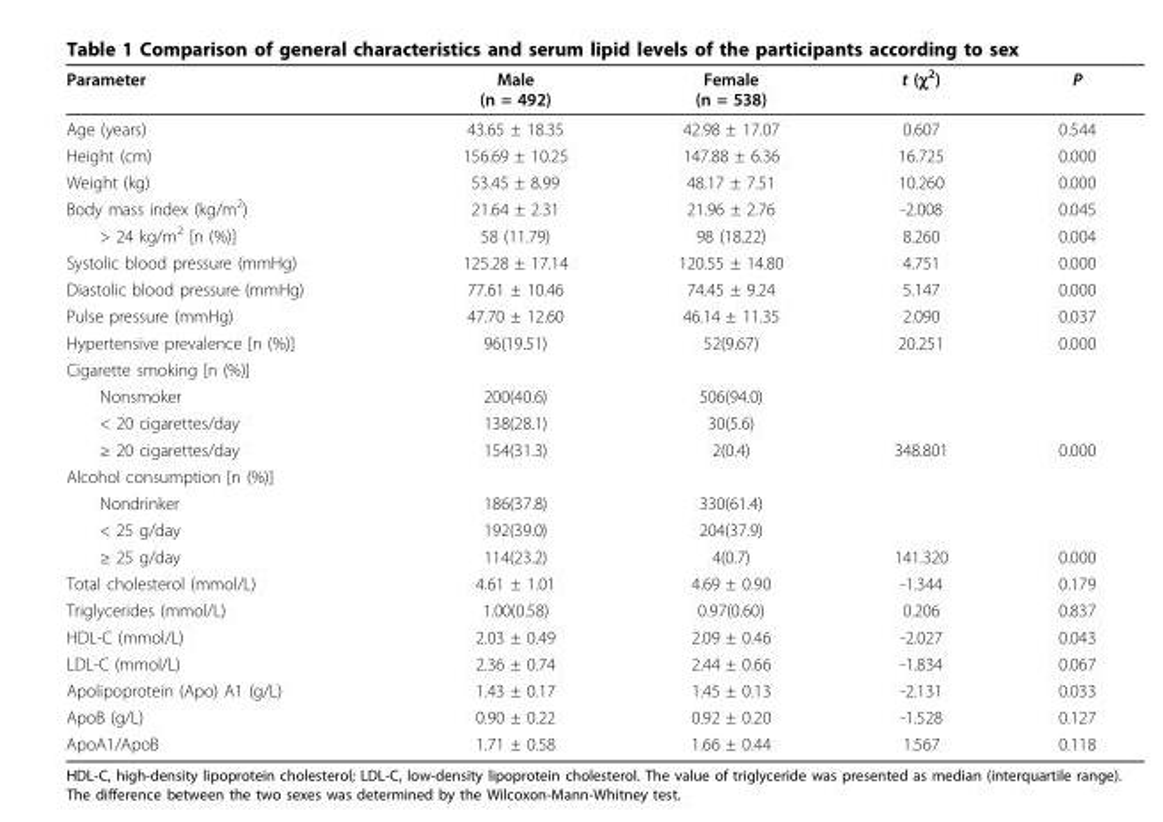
<table><thead><tr><td>Parameter</td><td>Male (n = 492)</td><td>Female (n = 538)</td><td>t (χ<sup>2</sup>)</td><td>P</td></tr></thead><tbody><tr><td>Age (years)</td><td>43.65 ± 18.35</td><td>42.98 ± 17.07</td><td>0.607</td><td>0.544</td></tr><tr><td>Height (cm)</td><td>156.69 ± 10.25</td><td>147.88 ± 6.36</td><td>16.725</td><td>0.000</td></tr><tr><td>Weight (kg)</td><td>53.45 ± 8.99</td><td>48.17 ± 7.51</td><td>10.260</td><td>0.000</td></tr><tr><td>Body mass index (kg/m<sup>2</sup>)</td><td>21.64 ± 2.31</td><td>21.96 ± 2.76</td><td>-2.008</td><td>0.045</td></tr><tr><td>&gt; 24 kg/m<sup>2</sup> [n (%)]</td><td>58 (11.79)</td><td>98 (18.22)</td><td>8.260</td><td>0.004</td></tr><tr><td>Systolic blood pressure (mmHg)</td><td>125.28 ± 17.14</td><td>120.55 ± 14.80</td><td>4.751</td><td>0.000</td></tr><tr><td>Diastolic blood pressure (mmHg)</td><td>77.61 ± 10.46</td><td>74.45 ± 9.24</td><td>5.147</td><td>0.000</td></tr><tr><td>Pulse pressure (mmHg)</td><td>47.70 ± 12.60</td><td>46.14 ± 11.35</td><td>2.090</td><td>0.037</td></tr><tr><td>Hypertensive prevalence [n (%)]</td><td>96(19.51)</td><td>52(9.67)</td><td>20.251</td><td>0.000</td></tr><tr><td colspan="5">Cigarette smoking [n (%)]</td></tr><tr><td>Nonsmoker</td><td>200(40.6)</td><td>506(94.0)</td><td></td><td></td></tr><tr><td>&lt; 20 cigarettes/day</td><td>138(28.1)</td><td>30(5.6)</td><td></td><td></td></tr><tr><td>≥ 20 cigarettes/day</td><td>154(31.3)</td><td>2(0.4)</td><td>348.801</td><td>0.000</td></tr><tr><td colspan="5">Alcohol consumption [n (%)]</td></tr><tr><td>Nondrinker</td><td>186(37.8)</td><td>330(61.4)</td><td></td><td></td></tr><tr><td>&lt; 25 g/day</td><td>192(39.0)</td><td>204(37.9)</td><td></td><td></td></tr><tr><td>≥ 25 g/day</td><td>114(23.2)</td><td>4(0.7)</td><td>141.320</td><td>0.000</td></tr><tr><td>Total cholesterol (mmol/L)</td><td>4.61 ± 1.01</td><td>4.69 ± 0.90</td><td>-1.344</td><td>0.179</td></tr><tr><td>Triglycerides (mmol/L)</td><td>1.00(0.58)</td><td>0.97(0.60)</td><td>0.206</td><td>0.837</td></tr><tr><td>HDL-C (mmol/L)</td><td>2.03 ± 0.49</td><td>2.09 ± 0.46</td><td>-2.027</td><td>0.043</td></tr><tr><td>LDL-C (mmol/L)</td><td>2.36 ± 0.74</td><td>2.44 ± 0.66</td><td>-1.834</td><td>0.067</td></tr><tr><td>Apolipoprotein (Apo) A1 (g/L)</td><td>1.43 ± 0.17</td><td>1.45 ± 0.13</td><td>-2.131</td><td>0.033</td></tr><tr><td>ApoB (g/L)</td><td>0.90 ± 0.22</td><td>0.92 ± 0.20</td><td>-1.528</td><td>0.127</td></tr><tr><td>ApoA1/ApoB</td><td>1.71 ± 0.58</td><td>1.66 ± 0.44</td><td>1.567</td><td>0.118</td></tr></tbody></table>